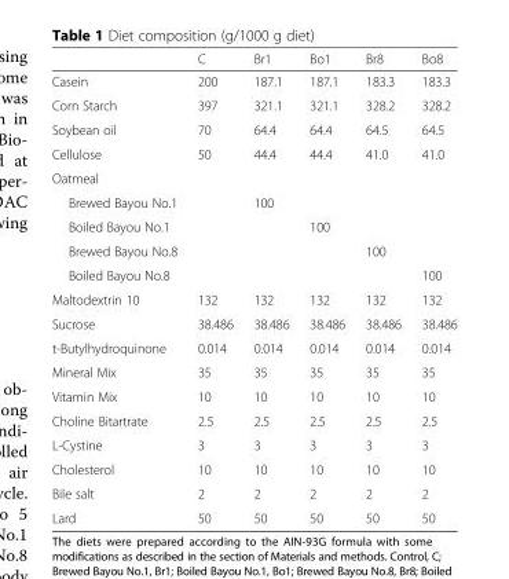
<table><thead><tr><td></td><td>C</td><td>Br1</td><td>Bo1</td><td>Br8</td><td>Bo8</td></tr></thead><tbody><tr><td>Casein</td><td>200</td><td>187.1</td><td>187.1</td><td>183.3</td><td>183.3</td></tr><tr><td>Corn Starch</td><td>397</td><td>321.1</td><td>321.1</td><td>328.2</td><td>328.2</td></tr><tr><td>Soybean oil</td><td>70</td><td>64.4</td><td>64.4</td><td>64.5</td><td>64.5</td></tr><tr><td>Cellulose</td><td>50</td><td>44.4</td><td>44.4</td><td>41.0</td><td>41.0</td></tr><tr><td colspan="6">Oatmeal</td></tr><tr><td>Brewed Bayou No.1</td><td></td><td>100</td><td></td><td></td><td></td></tr><tr><td>Boiled Bayou No.1</td><td></td><td></td><td>100</td><td></td><td></td></tr><tr><td>Brewed Bayou No.8</td><td></td><td></td><td></td><td>100</td><td></td></tr><tr><td>Boiled Bayou No.8</td><td></td><td></td><td></td><td></td><td>100</td></tr><tr><td>Maltodextrin 10</td><td>132</td><td>132</td><td>132</td><td>132</td><td>132</td></tr><tr><td>Sucrose</td><td>38.486</td><td>38.486</td><td>38.486</td><td>38.486</td><td>38.486</td></tr><tr><td>t-Butylhydroquinone</td><td>0.014</td><td>0.014</td><td>0.014</td><td>0.014</td><td>0.014</td></tr><tr><td>Mineral Mix</td><td>35</td><td>35</td><td>35</td><td>35</td><td>35</td></tr><tr><td>Vitamin Mix</td><td>10</td><td>10</td><td>10</td><td>10</td><td>10</td></tr><tr><td>Choline Bitartrate</td><td>2.5</td><td>2.5</td><td>2.5</td><td>2.5</td><td>2.5</td></tr><tr><td>L-Cystine</td><td>3</td><td>3</td><td>3</td><td>3</td><td>3</td></tr><tr><td>Cholesterol</td><td>10</td><td>10</td><td>10</td><td>10</td><td>10</td></tr><tr><td>Bile salt</td><td>2</td><td>2</td><td>2</td><td>2</td><td>2</td></tr><tr><td>Lard</td><td>50</td><td>50</td><td>50</td><td>50</td><td>50</td></tr></tbody></table>